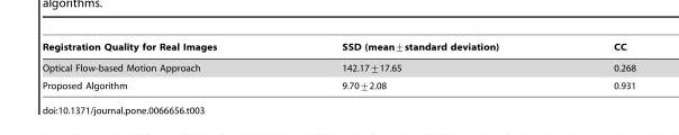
<table><thead><tr><td>Registration Quality for Real Images</td><td>SSD (mean+standard deviation)</td><td>CC</td></tr></thead><tbody><tr><td>Optical Flow-based Motion Approach</td><td>142.17+17.65</td><td>0.268</td></tr><tr><td>Proposed Algorithm</td><td>9.70+2.08</td><td>0.931</td></tr></tbody></table>